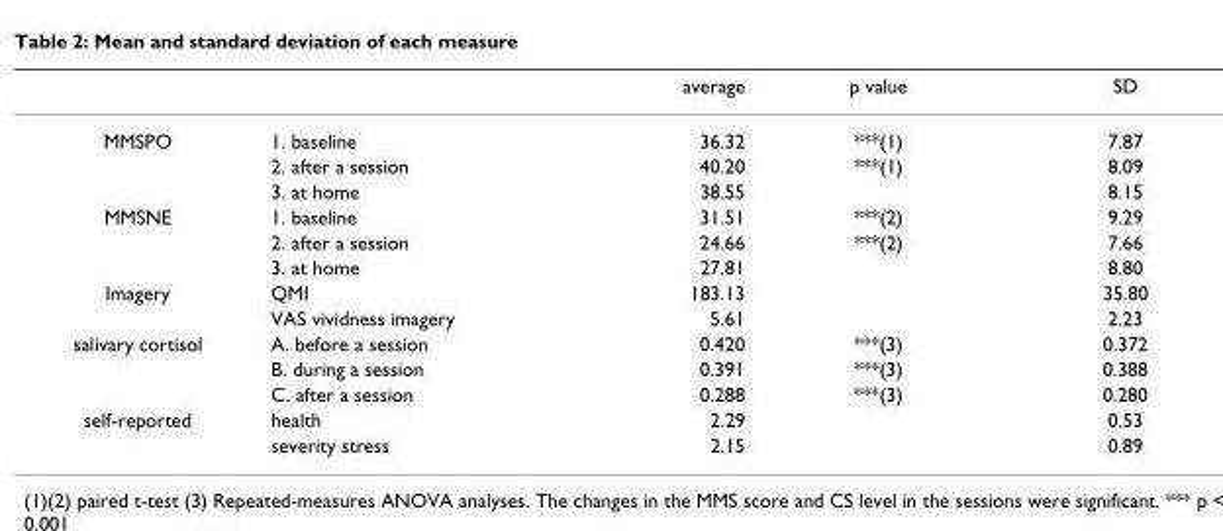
<table><thead><tr><td></td><td></td><td>average</td><td>p value</td><td>SD</td></tr></thead><tbody><tr><td rowspan="3">MMSPO</td><td>1. baseline</td><td>36.32</td><td>***(1)</td><td>7.87</td></tr><tr><td>2. after a session</td><td>40.20</td><td>***(1)</td><td>8.09</td></tr><tr><td>3. at home</td><td>38.55</td><td></td><td>8.15</td></tr><tr><td rowspan="3">MMSNE</td><td>1. baseline</td><td>31.51</td><td>***(2)</td><td>9.29</td></tr><tr><td>2. after a session</td><td>24.66</td><td>***(2)</td><td>7.66</td></tr><tr><td>3. at home</td><td>27.81</td><td></td><td>8.80</td></tr><tr><td rowspan="2">Imagery</td><td>QMI</td><td>183.13</td><td></td><td>35.80</td></tr><tr><td>VAS vividness imagery</td><td>5.61</td><td></td><td>2.23</td></tr><tr><td rowspan="3">salivary cortisol</td><td>A. before a session</td><td>0.420</td><td>***(3)</td><td>0.372</td></tr><tr><td>B. during a session</td><td>0.391</td><td>***(3)</td><td>0.388</td></tr><tr><td>C. after a session</td><td>0.288</td><td>***(3)</td><td>0.280</td></tr><tr><td rowspan="2">self-reported</td><td>health</td><td>2.29</td><td></td><td>0.53</td></tr><tr><td>severity stress</td><td>2.15</td><td></td><td>0.89</td></tr></tbody></table>